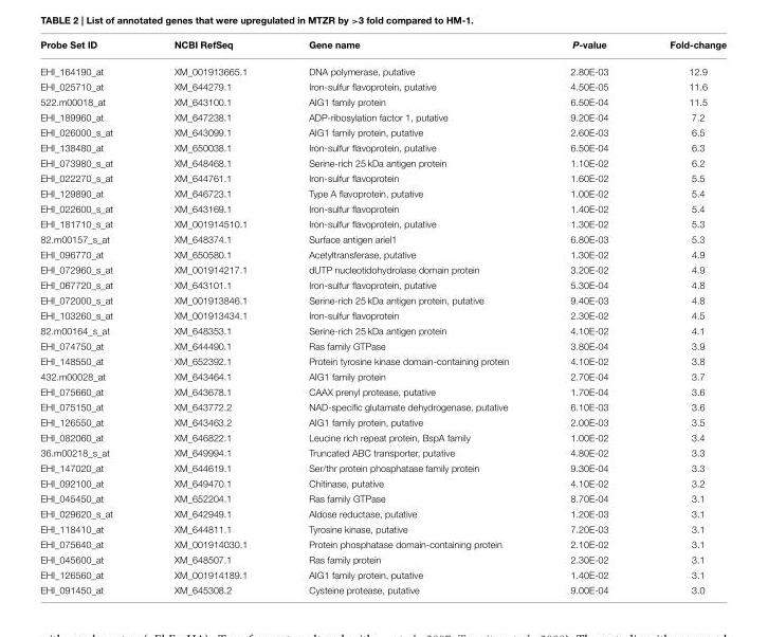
<table><thead><tr><td>Probe Set ID</td><td>NCBI RefSeq</td><td>Gene name</td><td>P-value</td><td>Fold-change</td></tr></thead><tbody><tr><td>EHI_164190_at</td><td>XM_001913665.1</td><td>DNA polymerase, putative</td><td>2.80E-03</td><td>12.9</td></tr><tr><td>EHI_025710_at</td><td>XM_644279.1</td><td>Iron-sulfur flavoprotein, putative</td><td>4.50E-05</td><td>11.6</td></tr><tr><td>522.m00018_at</td><td>XM_643100.1</td><td>AIG1 family protein</td><td>6.50E-04</td><td>11.5</td></tr><tr><td>EHI_189960_at</td><td>XM_647238.1</td><td>ADP-ribosylation factor 1, putative</td><td>9.20E-04</td><td>7.2</td></tr><tr><td>EHI_026000_s_at</td><td>XM_643099.1</td><td>AIG1 family protein, putative</td><td>2.60E-03</td><td>6.5</td></tr><tr><td>EHI_138480_at</td><td>XM_650038.1</td><td>Iron-sulfur flavoprotein, putative</td><td>6.50E-04</td><td>6.3</td></tr><tr><td>EHI_073980_s_at</td><td>XM_648468.1</td><td>Serine-rich 25 kDa antigen protein</td><td>1.10E-02</td><td>6.2</td></tr><tr><td>EHI_022270_s_at</td><td>XM_644761.1</td><td>Iron-sulfur flavoprotein</td><td>1.60E-02</td><td>5.5</td></tr><tr><td>EHI_129890_at</td><td>XM_646723.1</td><td>Type A flavoprotein, putative</td><td>1.00E-02</td><td>5.4</td></tr><tr><td>EHI_022600_s_at</td><td>XM_643169.1</td><td>Iron-sulfur flavoprotein</td><td>1.40E-02</td><td>5.4</td></tr><tr><td>EHI_181710_s_at</td><td>XM_001914510.1</td><td>Iron-sulfur flavoprotein, putative</td><td>1.30E-02</td><td>5.3</td></tr><tr><td>82.m00157_s_at</td><td>XM_648374.1</td><td>Surface antigen ariel1</td><td>6.80E-03</td><td>5.3</td></tr><tr><td>EHI_096770_at</td><td>XM_650580.1</td><td>Acetyltransferase, putative</td><td>1.30E-02</td><td>4.9</td></tr><tr><td>EHI_072960_s_at</td><td>XM_001914217.1</td><td>dUTP nucleotidohydrolase domain protein</td><td>3.20E-02</td><td>4.9</td></tr><tr><td>EHI_067720_s_at</td><td>XM_643101.1</td><td>Iron-sulfur flavoprotein, putative</td><td>5.30E-04</td><td>4.8</td></tr><tr><td>EHI_072000_s_at</td><td>XM_001913846.1</td><td>Serine-rich 25 kDa antigen protein, putative</td><td>9.40E-03</td><td>4.8</td></tr><tr><td>EHI_103260_s_at</td><td>XM_001913434.1</td><td>Iron-sulfur flavoprotein</td><td>2.30E-02</td><td>4.5</td></tr><tr><td>82.m00164_s_at</td><td>XM_648353.1</td><td>Serine-rich 25 kDa antigen protein</td><td>4.10E-02</td><td>4.1</td></tr><tr><td>EHI_074750_at</td><td>XM_644490.1</td><td>Ras family GTPase</td><td>3.80E-04</td><td>3.9</td></tr><tr><td>EHI_148550_at</td><td>XM_652392.1</td><td>Protein tyrosine kinase domain-containing protein</td><td>4.10E-02</td><td>3.8</td></tr><tr><td>432.m00028_at</td><td>XM_643464.1</td><td>AIG1 family protein</td><td>2.70E-04</td><td>3.7</td></tr><tr><td>EHI_075660_at</td><td>XM_643678.1</td><td>CAAX prenyl protease, putative</td><td>1.70E-04</td><td>3.6</td></tr><tr><td>EHI_075150_at</td><td>XM_643772.2</td><td>NAD-specific glutamate dehydrogenase, putative</td><td>6.10E-03</td><td>3.6</td></tr><tr><td>EHI_126550_at</td><td>XM_643463.2</td><td>AIG1 family protein, putative</td><td>2.00E-03</td><td>3.5</td></tr><tr><td>EHI_082060_at</td><td>XM_646822.1</td><td>Leucine rich repeat protein, BspA family</td><td>1.00E-02</td><td>3.4</td></tr><tr><td>36.m00218_s_at</td><td>XM_649994.1</td><td>Truncated ABC transporter, putative</td><td>4.80E-02</td><td>3.3</td></tr><tr><td>EHI_147020_at</td><td>XM_644619.1</td><td>Ser/thr protein phosphatase family protein</td><td>9.30E-04</td><td>3.3</td></tr><tr><td>EHI_092100_at</td><td>XM_649470.1</td><td>Chitinase, putative</td><td>4.10E-02</td><td>3.2</td></tr><tr><td>EHI_045450_at</td><td>XM_652204.1</td><td>Ras family GTPase</td><td>8.70E-04</td><td>3.1</td></tr><tr><td>EHI_029620_s_at</td><td>XM_642949.1</td><td>Aldose reductase, putative</td><td>1.20E-03</td><td>3.1</td></tr><tr><td>EHI_118410_at</td><td>XM_644811.1</td><td>Tyrosine kinase, putative</td><td>7.20E-03</td><td>3.1</td></tr><tr><td>EHI_075640_at</td><td>XM_001914030.1</td><td>Protein phosphatase domain-containing protein</td><td>2.10E-02</td><td>3.1</td></tr><tr><td>EHI_045600_at</td><td>XM_648507.1</td><td>Ras family protein</td><td>2.30E-02</td><td>3.1</td></tr><tr><td>EHI_126560_at</td><td>XM_001914189.1</td><td>AIG1 family protein, putative</td><td>1.40E-02</td><td>3.1</td></tr><tr><td>EHI_091450_at</td><td>XM_645308.2</td><td>Cysteine protease, putative</td><td>9.00E-04</td><td>3.0</td></tr></tbody></table>